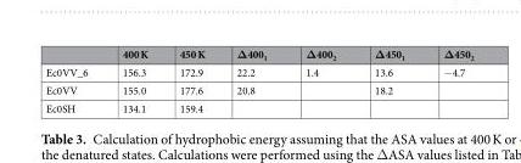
<table><thead><tr><td></td><td>400 K</td><td>450 K</td><td>Δ400<sub>1</sub></td><td>Δ400<sub>2</sub></td><td>Δ450<sub>1</sub></td><td>Δ450<sub>2</sub></td></tr></thead><tbody><tr><td>Ec0VV_6</td><td>156.3</td><td>172.9</td><td>22.2</td><td>1.4</td><td>13.6</td><td>−4.7</td></tr><tr><td>Ec0VV</td><td>155.0</td><td>177.6</td><td>20.8</td><td></td><td>18.2</td><td></td></tr><tr><td>Ec0SH</td><td>134.1</td><td>159.4</td><td></td><td></td><td></td><td></td></tr></tbody></table>